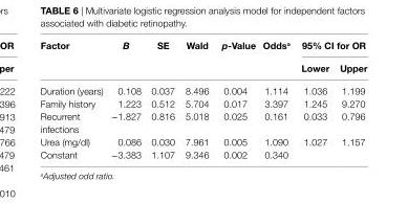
<table><thead><tr><td rowspan="2">Factor</td><td rowspan="2">B</td><td rowspan="2">se</td><td rowspan="2">Wald</td><td rowspan="2">p-Value</td><td rowspan="2">Odds<sup>a</sup></td><td colspan="2">95% ci for Or</td></tr><tr><td>lower</td><td>Upper</td></tr></thead><tbody><tr><td>Duration (years)</td><td>0.108</td><td>0.037</td><td>8.496</td><td>0.004</td><td>1.114</td><td>1.036</td><td>1.199</td></tr><tr><td>Family history</td><td>1.223</td><td>0.512</td><td>5.704</td><td>0.017</td><td>3.397</td><td>1.245</td><td>9.270</td></tr><tr><td>Recurrent infections</td><td>−1.827</td><td>0.816</td><td>5.018</td><td>0.025</td><td>0.161</td><td>0.033</td><td>0.796</td></tr><tr><td>Urea (mg/dl)</td><td>0.086</td><td>0.030</td><td>7.961</td><td>0.005</td><td>1.090</td><td>1.027</td><td>1.157</td></tr><tr><td>Constant</td><td>−3.383</td><td>1.107</td><td>9.346</td><td>0.002</td><td>0.340</td><td></td><td></td></tr></tbody></table>